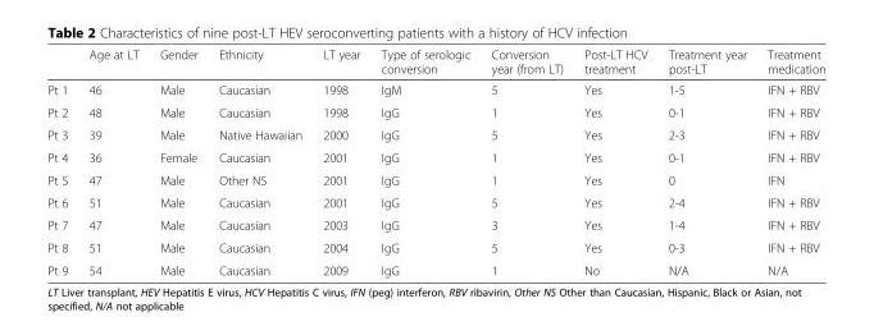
<table><thead><tr><td></td><td>Age at LT</td><td>Gender</td><td>Ethnicity</td><td>LT year</td><td>Type of serologic conversion</td><td>Conversion year (from LT)</td><td>Post-LT HCV treatment</td><td>Treatment year post-LT</td><td>Treatment medication</td></tr></thead><tbody><tr><td>Pt 1</td><td>46</td><td>Male</td><td>Caucasian</td><td>1998</td><td>IgM</td><td>5</td><td>Yes</td><td>1-5</td><td>IFN + RBV</td></tr><tr><td>Pt 2</td><td>48</td><td>Male</td><td>Caucasian</td><td>1998</td><td>IgG</td><td>1</td><td>Yes</td><td>0-1</td><td>IFN + RBV</td></tr><tr><td>Pt 3</td><td>39</td><td>Male</td><td>Native Hawaiian</td><td>2000</td><td>IgG</td><td>5</td><td>Yes</td><td>2-3</td><td>IFN + RBV</td></tr><tr><td>Pt 4</td><td>36</td><td>Female</td><td>Caucasian</td><td>2001</td><td>IgG</td><td>1</td><td>Yes</td><td>0-1</td><td>IFN + RBV</td></tr><tr><td>Pt 5</td><td>47</td><td>Male</td><td>Other NS</td><td>2001</td><td>IgG</td><td>1</td><td>Yes</td><td>0</td><td>IFN</td></tr><tr><td>Pt 6</td><td>51</td><td>Male</td><td>Caucasian</td><td>2001</td><td>IgG</td><td>5</td><td>Yes</td><td>2-4</td><td>IFN + RBV</td></tr><tr><td>Pt 7</td><td>47</td><td>Male</td><td>Caucasian</td><td>2003</td><td>IgG</td><td>3</td><td>Yes</td><td>1-4</td><td>IFN + RBV</td></tr><tr><td>Pt 8</td><td>51</td><td>Male</td><td>Caucasian</td><td>2004</td><td>IgG</td><td>5</td><td>Yes</td><td>0-3</td><td>IFN + RBV</td></tr><tr><td>Pt 9</td><td>54</td><td>Male</td><td>Caucasian</td><td>2009</td><td>IgG</td><td>1</td><td>No</td><td>N/A</td><td>N/A</td></tr></tbody></table>